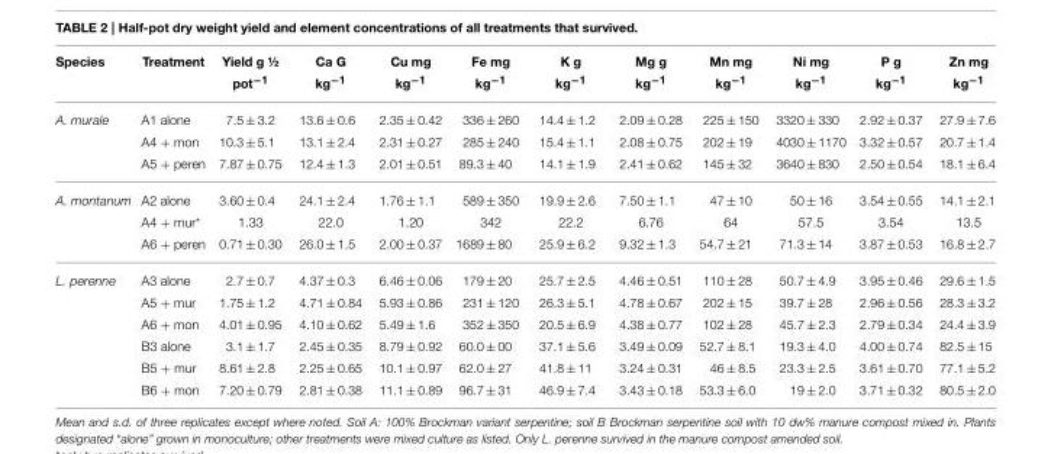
<table><thead><tr><td>Species</td><td>Treatment</td><td>Yield g ½ pot<sup>−1</sup></td><td>Ca G kg<sup>−1</sup></td><td>Cu mg kg<sup>−1</sup></td><td>Fe mg kg<sup>−1</sup></td><td>K g kg<sup>−1</sup></td><td>Mg g kg<sup>−1</sup></td><td>Mn mg kg<sup>−1</sup></td><td>Ni mg kg<sup>−1</sup></td><td>P g kg<sup>−1</sup></td><td>Zn mg kg<sup>−1</sup></td></tr></thead><tbody><tr><td rowspan="3">A. murale</td><td>A1 alone</td><td>7.5 ± 3.2</td><td>13.6 ± 0.6</td><td>2.35 ± 0.42</td><td>336 ± 260</td><td>14.4 ± 1.2</td><td>2.09 ± 0.28</td><td>225 ± 150</td><td>3320 ± 330</td><td>2.92 ± 0.37</td><td>27.9 ± 7.6</td></tr><tr><td>A4 + mon</td><td>10.3 ± 5.1</td><td>13.1 ± 2.4</td><td>2.31 ± 0.27</td><td>285 ± 240</td><td>15.4 ± 1.1</td><td>2.08 ± 0.75</td><td>202 ± 19</td><td>4030 ± 1170</td><td>3.32 ± 0.57</td><td>20.7 ± 1.4</td></tr><tr><td>A5 + peren</td><td>7.87 ± 0.75</td><td>12.4 ± 1.3</td><td>2.01 ± 0.51</td><td>89.3 ± 40</td><td>14.1 ± 1.9</td><td>2.41 ± 0.62</td><td>145 ± 32</td><td>3640 ± 830</td><td>2.50 ± 0.54</td><td>18.1 ± 6.4</td></tr><tr><td rowspan="3">A. montanum</td><td>A2 alone</td><td>3.60 ± 0.4</td><td>24.1 ± 2.4</td><td>1.76 ± 1.1</td><td>589 ± 350</td><td>19.9 ± 2.6</td><td>7.50 ± 1.1</td><td>47 ± 10</td><td>50 ± 16</td><td>3.54 ± 0.55</td><td>14.1 ± 2.1</td></tr><tr><td>A4 + mur*</td><td>1.33</td><td>22.0</td><td>1.20</td><td>342</td><td>22.2</td><td>6.76</td><td>64</td><td>57.5</td><td>3.54</td><td>13.5</td></tr><tr><td>A6 + peren</td><td>0.71 ± 0.30</td><td>26.0 ± 1.5</td><td>2.00 ± 0.37</td><td>1689 ± 80</td><td>25.9 ± 6.2</td><td>9.32 ± 1.3</td><td>54.7 ± 21</td><td>71.3 ± 14</td><td>3.87 ± 0.53</td><td>16.8 ± 2.7</td></tr><tr><td rowspan="6">L. perenne</td><td>A3 alone</td><td>2.7 ± 0.7</td><td>4.37 ± 0.3</td><td>6.46 ± 0.06</td><td>179 ± 20</td><td>25.7 ± 2.5</td><td>4.46 ± 0.51</td><td>110 ± 28</td><td>50.7 ± 4.9</td><td>3.95 ± 0.46</td><td>29.6 ± 1.5</td></tr><tr><td>A5 + mur</td><td>1.75 ± 1.2</td><td>4.71 ± 0.84</td><td>5.93 ± 0.86</td><td>231 ± 120</td><td>26.3 ± 5.1</td><td>4.78 ± 0.67</td><td>202 ± 15</td><td>39.7 ± 28</td><td>2.96 ± 0.56</td><td>28.3 ± 3.2</td></tr><tr><td>A6 + mon</td><td>4.01 ± 0.95</td><td>4.10 ± 0.62</td><td>5.49 ± 1.6</td><td>352 ± 350</td><td>20.5 ± 6.9</td><td>4.38 ± 0.77</td><td>102 ± 28</td><td>45.7 ± 2.3</td><td>2.79 ± 0.34</td><td>24.4 ± 3.9</td></tr><tr><td>B3 alone</td><td>3.1 ± 1.7</td><td>2.45 ± 0.35</td><td>8.79 ± 0.92</td><td>60.0 ± 00</td><td>37.1 ± 5.6</td><td>3.49 ± 0.09</td><td>52.7 ± 8.1</td><td>19.3 ± 4.0</td><td>4.00 ± 0.74</td><td>82.5 ± 15</td></tr><tr><td>B5 + mur</td><td>8.61 ± 2.8</td><td>2.25 ± 0.65</td><td>10.1 ± 0.97</td><td>62.0 ± 27</td><td>41.8 ± 11</td><td>3.24 ± 0.31</td><td>46 ± 8.5</td><td>23.3 ± 2.5</td><td>3.61 ± 0.70</td><td>77.1 ± 5.2</td></tr><tr><td>B6 + mon</td><td>7.20 ± 0.79</td><td>2.81 ± 0.38</td><td>11.1 ± 0.89</td><td>96.7 ± 31</td><td>46.9 ± 7.4</td><td>3.43 ± 0.18</td><td>53.3 ± 6.0</td><td>19 ± 2.0</td><td>3.71 ± 0.32</td><td>80.5 ± 2.0</td></tr></tbody></table>